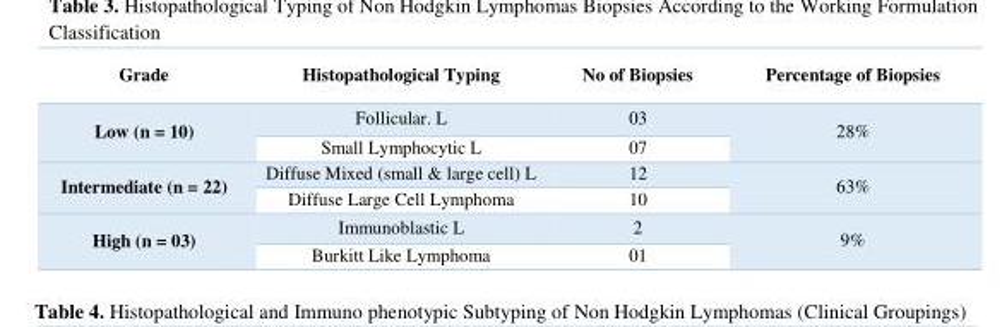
<table><thead><tr><td>Grade</td><td>Histopathological Typing</td><td>No of Biopsies</td><td>Percentage of Biopsies</td></tr></thead><tbody><tr><td rowspan="2">Low (n = 10)</td><td>Follicular. L</td><td>03</td><td rowspan="2">28%</td></tr><tr><td>Small Lymphocytic L</td><td>07</td></tr><tr><td rowspan="2">Intermediate (n = 22)</td><td>Diffuse Mixed (small &amp; large cell) L</td><td>12</td><td rowspan="2">63%</td></tr><tr><td>Diffuse Large Cell Lymphoma</td><td>10</td></tr><tr><td rowspan="2">High (n = 03)</td><td>Immunoblastic L</td><td>2</td><td rowspan="2">9%</td></tr><tr><td>Burkitt Like Lymphoma</td><td>01</td></tr></tbody></table>